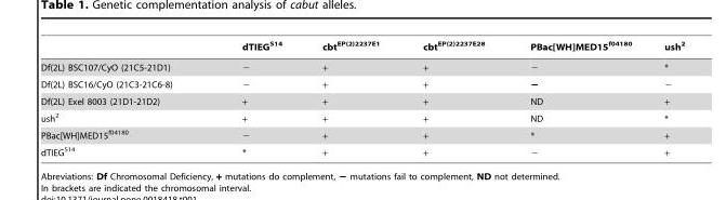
<table><thead><tr><td></td><td>dTIEG<sup>S14</sup></td><td>cbt<sup>EP(2)2237E1</sup></td><td>cbt<sup>EP(2)2237E28</sup></td><td>PBac[WH]MED15<sup>f04180</sup></td><td>ush<sup>2</sup></td></tr></thead><tbody><tr><td>Df(2L) BSC107/CyO (21C5-21D1)</td><td>−</td><td>+</td><td>+</td><td>−</td><td>*</td></tr><tr><td>Df(2L) BSC16/CyO (21C3-21C6-8)</td><td>−</td><td>+</td><td>+</td><td>−</td><td>−</td></tr><tr><td>Df(2L) Exel 8003 (21D1-21D2)</td><td>+</td><td>+</td><td>+</td><td>ND</td><td>+</td></tr><tr><td>ush<sup>2</sup></td><td>+</td><td>+</td><td>+</td><td>ND</td><td>*</td></tr><tr><td>PBac[WH]MED15<sup>f04180</sup></td><td>−</td><td>+</td><td>+</td><td>*</td><td>+</td></tr><tr><td>dTIEG<sup>S14</sup></td><td>*</td><td>+</td><td>+</td><td>−</td><td>+</td></tr></tbody></table>